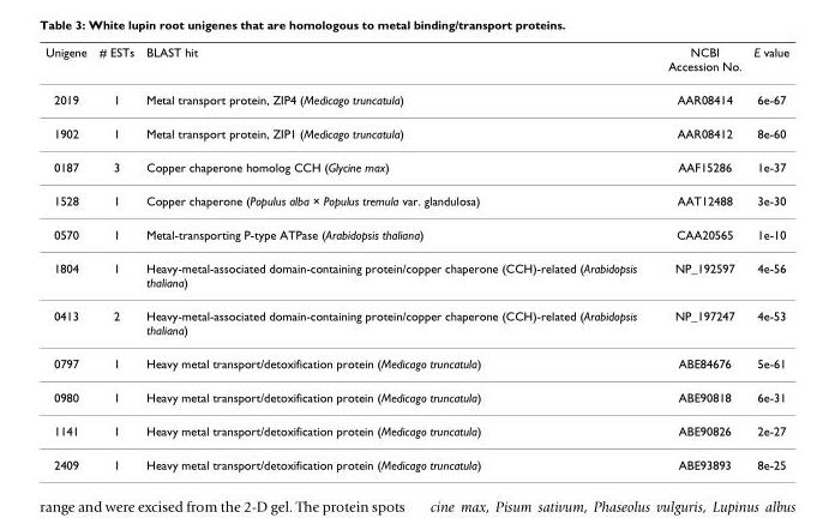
<table><thead><tr><td>Unigene</td><td># ESTs</td><td>BLAST hit</td><td>NCBI Accession No.</td><td>E value</td></tr></thead><tbody><tr><td>2019</td><td>1</td><td>Metal transport protein, ZIP4 (Medicago truncatula)</td><td>AAR08414</td><td>6e-67</td></tr><tr><td>1902</td><td>1</td><td>Metal transport protein, ZIP1 (Medicago truncatula)</td><td>AAR08412</td><td>8e-60</td></tr><tr><td>0187</td><td>3</td><td>Copper chaperone homolog CCH (Glycine max)</td><td>AAF15286</td><td>1e-37</td></tr><tr><td>1528</td><td>1</td><td>Copper chaperone (Populus alba × Populus tremula var. glandulosa)</td><td>AAT12488</td><td>3e-30</td></tr><tr><td>0570</td><td>1</td><td>Metal-transporting P-type ATPase (Arabidopsis thaliana)</td><td>CAA20565</td><td>1e-10</td></tr><tr><td>1804</td><td>1</td><td>Heavy-metal-associated domain-containing protein/copper chaperone (CCH)-related (Arabidopsis thaliana)</td><td>NP_192597</td><td>4e-56</td></tr><tr><td>0413</td><td>2</td><td>Heavy-metal-associated domain-containing protein/copper chaperone (CCH)-related (Arabidopsis thaliana)</td><td>NP_197247</td><td>4e-53</td></tr><tr><td>0797</td><td>1</td><td>Heavy metal transport/detoxification protein (Medicago truncatula)</td><td>ABE84676</td><td>5e-61</td></tr><tr><td>0980</td><td>1</td><td>Heavy metal transport/detoxification protein (Medicago truncatula)</td><td>ABE90818</td><td>6e-31</td></tr><tr><td>1141</td><td>1</td><td>Heavy metal transport/detoxification protein (Medicago truncatula)</td><td>ABE90826</td><td>2e-27</td></tr><tr><td>2409</td><td>1</td><td>Heavy metal transport/detoxification protein (Medicago truncatula)</td><td>ABE93893</td><td>8e-25</td></tr></tbody></table>